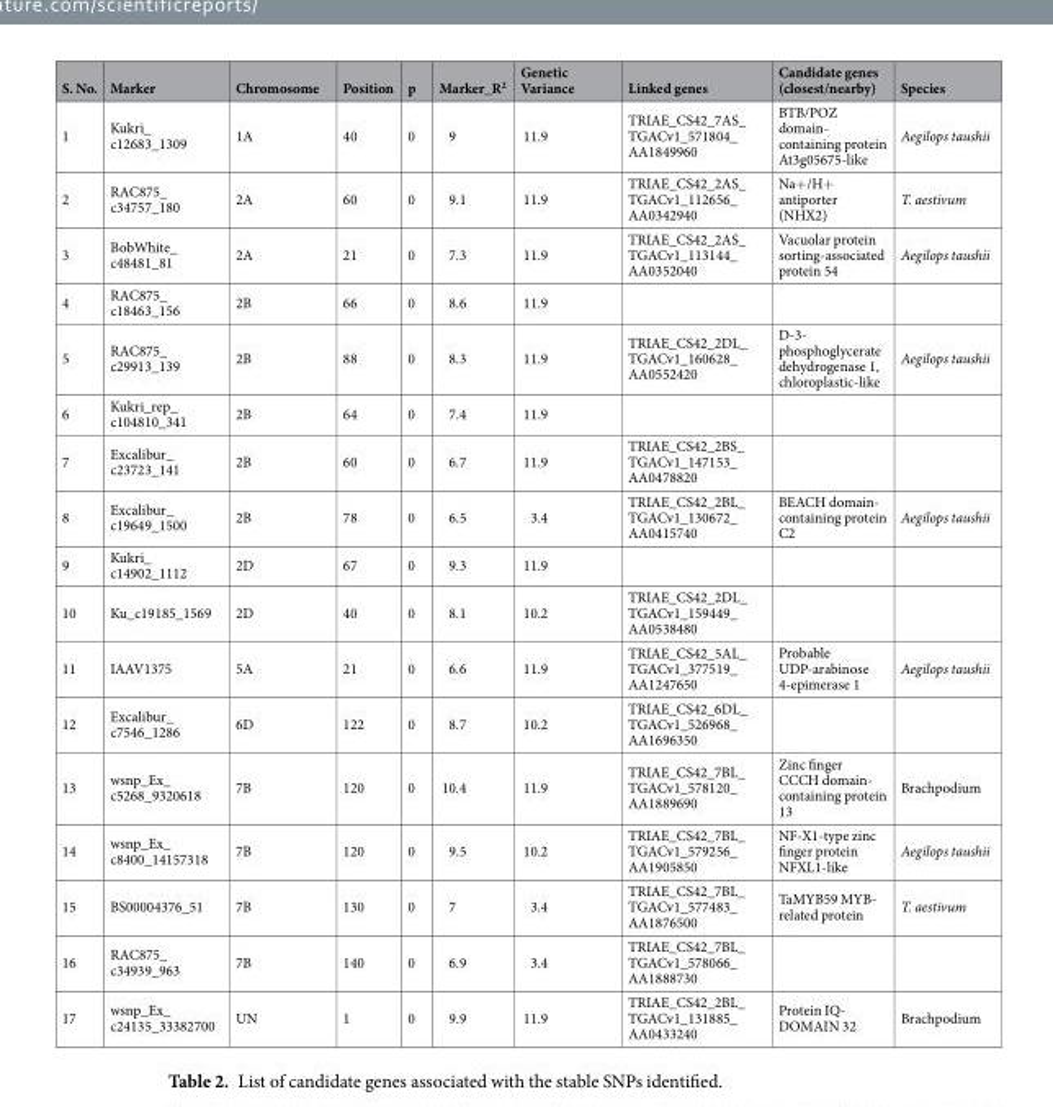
<table><thead><tr><td>S. No.</td><td>Marker</td><td>Chromosome</td><td>Position</td><td>p</td><td>Marker_R<sup>2</sup></td><td>Genetic Variance</td><td>Linked genes</td><td>Candidate genes (closest/nearby)</td><td>Species</td></tr></thead><tbody><tr><td>1</td><td>Kukri_ c12683_1309</td><td>1A</td><td>40</td><td>0</td><td>9</td><td>11.9</td><td>TRIAE_CS42_7AS_ TGACv1_571804_ AA1849960</td><td>BTB/POZ domain- containing protein At3g05675-like</td><td>Aegilops taushii</td></tr><tr><td>2</td><td>RAC875_ c34757_180</td><td>2A</td><td>60</td><td>0</td><td>9.1</td><td>11.9</td><td>TRIAE_CS42_2AS_ TGACv1_112656_ AA0342940</td><td>Na+/H+ antiporter (NHX2)</td><td>T. aestivum</td></tr><tr><td>3</td><td>BobWhite_ c48481_81</td><td>2A</td><td>21</td><td>0</td><td>7.3</td><td>11.9</td><td>TRIAE_CS42_2AS_ TGACv1_113144_ AA0352040</td><td>Vacuolar protein sorting-associated protein 54</td><td>Aegilops taushii</td></tr><tr><td>4</td><td>RAC875_ c18463_156</td><td>2B</td><td>66</td><td>0</td><td>8.6</td><td>11.9</td><td></td><td></td><td></td></tr><tr><td>5</td><td>RAC875_ c29913_139</td><td>2B</td><td>88</td><td>0</td><td>8.3</td><td>11.9</td><td>TRIAE_CS42_2DL_ TGACv1_160628_ AA0552420</td><td>D-3- phosphoglycerate dehydrogenase 1, chloroplastic-like</td><td>Aegilops taushii</td></tr><tr><td>6</td><td>Kukri_rep_ c104810_341</td><td>2B</td><td>64</td><td>0</td><td>7.4</td><td>11.9</td><td></td><td></td><td></td></tr><tr><td>7</td><td>Excalibur_ c23723_141</td><td>2B</td><td>60</td><td>0</td><td>6.7</td><td>11.9</td><td>TRIAE_CS42_2BS_ TGACv1_147153_ AA0478820</td><td></td><td></td></tr><tr><td>8</td><td>Excalibur_ c19649_1500</td><td>2B</td><td>78</td><td>0</td><td>6.5</td><td>3.4</td><td>TRIAE_CS42_2BL_ TGACv1_130672_ AA0415740</td><td>BEACH domain- containing protein C2</td><td>Aegilops taushii</td></tr><tr><td>9</td><td>Kukri_ c14902_1112</td><td>2D</td><td>67</td><td>0</td><td>9.3</td><td>11.9</td><td></td><td></td><td></td></tr><tr><td>10</td><td>Ku_c19185_1569</td><td>2D</td><td>40</td><td>0</td><td>8.1</td><td>10.2</td><td>TRIAE_CS42_2DL_ TGACv1_159449_ AA0538480</td><td></td><td></td></tr><tr><td>11</td><td>IAAV1375</td><td>5A</td><td>21</td><td>0</td><td>6.6</td><td>11.9</td><td>TRIAE_CS42_5AL_ TGACv1_377519_ AA1247650</td><td>Probable UDP-arabinose 4-epimerase 1</td><td>Aegilops taushii</td></tr><tr><td>12</td><td>Excalibur_ c7546_1286</td><td>6D</td><td>122</td><td>0</td><td>8.7</td><td>10.2</td><td>TRIAE_CS42_6DL_ TGACv1_526968_ AA1696350</td><td></td><td></td></tr><tr><td>13</td><td>wsnp_Ex_ c5268_9320618</td><td>7B</td><td>120</td><td>0</td><td>10.4</td><td>11.9</td><td>TRIAE_CS42_7BL_ TGACv1_578120_ AA1889690</td><td>Zinc finger CCCH domain- containing protein 13</td><td>Brachpodium</td></tr><tr><td>14</td><td>wsnp_Ex_ c8400_14157318</td><td>7B</td><td>120</td><td>0</td><td>9.5</td><td>10.2</td><td>TRIAE_CS42_7BL_ TGACv1_579256_ AA1905850</td><td>NF-X1-type zinc finger protein NFXL1-like</td><td>Aegilops taushii</td></tr><tr><td>15</td><td>BS00004376_51</td><td>7B</td><td>130</td><td>0</td><td>7</td><td>3.4</td><td>TRIAE_CS42_7BL_ TGACv1_577483_ AA1876500</td><td>TaMYB59 MYB- related protein</td><td>T. aestivum</td></tr><tr><td>16</td><td>RAC875_ c34939_963</td><td>7B</td><td>140</td><td>0</td><td>6.9</td><td>3.4</td><td>TRIAE_CS42_7BL_ TGACv1_578066_ AA1888730</td><td></td><td></td></tr><tr><td>17</td><td>wsnp_Ex_ c24135_33382700</td><td>UN</td><td>1</td><td>0</td><td>9.9</td><td>11.9</td><td>TRIAE_CS42_2BL_ TGACv1_131885_ AA0433240</td><td>Protein IQ- DOMAIN 32</td><td>Brachpodium</td></tr></tbody></table>